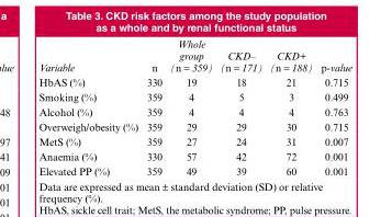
<table><thead><tr><td>Variable</td><td>n</td><td>Whole group (n = 359)</td><td>CKD– (n = 171)</td><td>CKD+ (n = 188)</td><td>p-value</td></tr></thead><tbody><tr><td>HbAS (%)</td><td>330</td><td>19</td><td>18</td><td>21</td><td>0.715</td></tr><tr><td>Smoking (%)</td><td>359</td><td>4</td><td>5</td><td>3</td><td>0.499</td></tr><tr><td>Alcohol (%)</td><td>359</td><td>4</td><td>4</td><td>4</td><td>0.763</td></tr><tr><td>Overweigh/obesity (%)</td><td>359</td><td>29</td><td>29</td><td>30</td><td>0.715</td></tr><tr><td>MetS (%)</td><td>359</td><td>27</td><td>24</td><td>31</td><td>0.007</td></tr><tr><td>Anaemia (%)</td><td>330</td><td>57</td><td>42</td><td>72</td><td>0.001</td></tr><tr><td>Elevated PP (%)</td><td>359</td><td>49</td><td>39</td><td>60</td><td>0.001</td></tr></tbody></table>